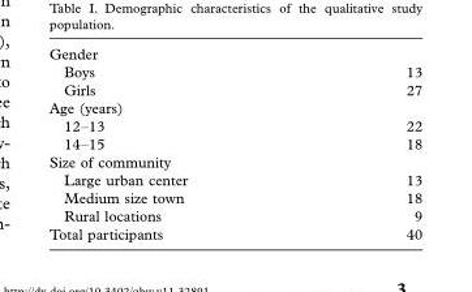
<table><tbody><tr><td colspan="2">Gender</td></tr><tr><td>Boys</td><td>13</td></tr><tr><td>Girls</td><td>27</td></tr><tr><td colspan="2">Age (years)</td></tr><tr><td>12–13</td><td>22</td></tr><tr><td>14–15</td><td>18</td></tr><tr><td colspan="2">Size of community</td></tr><tr><td>Large urban center</td><td>13</td></tr><tr><td>Medium size town</td><td>18</td></tr><tr><td>Rural locations</td><td>9</td></tr><tr><td>Total participants</td><td>40</td></tr></tbody></table>